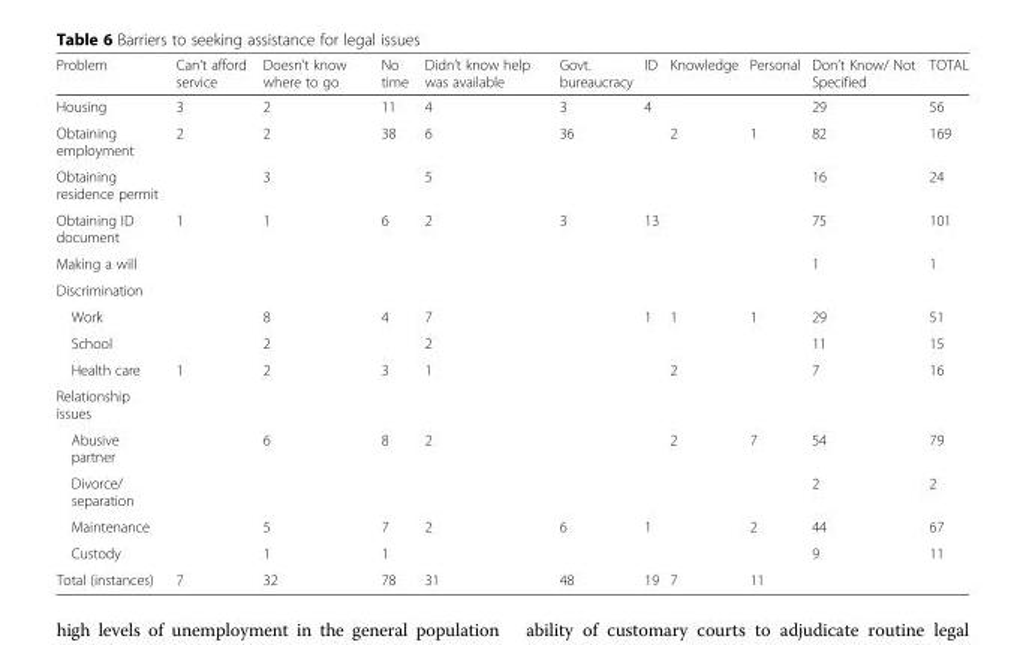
<table><thead><tr><td>Problem</td><td>Can’t afford service</td><td>Doesn’t know where to go</td><td>No time</td><td>Didn’t know help was available</td><td>Govt. bureaucracy</td><td>ID</td><td>Knowledge</td><td>Personal</td><td>Don’t Know/ Not Specified</td><td>TOTAL</td></tr></thead><tbody><tr><td>Housing</td><td>3</td><td>2</td><td>11</td><td>4</td><td>3</td><td>4</td><td></td><td></td><td>29</td><td>56</td></tr><tr><td>Obtaining employment</td><td>2</td><td>2</td><td>38</td><td>6</td><td>36</td><td></td><td>2</td><td>1</td><td>82</td><td>169</td></tr><tr><td>Obtaining residence permit</td><td></td><td>3</td><td></td><td>5</td><td></td><td></td><td></td><td></td><td>16</td><td>24</td></tr><tr><td>Obtaining ID document</td><td>1</td><td>1</td><td>6</td><td>2</td><td>3</td><td>13</td><td></td><td></td><td>75</td><td>101</td></tr><tr><td>Making a will</td><td></td><td></td><td></td><td></td><td></td><td></td><td></td><td></td><td>1</td><td>1</td></tr><tr><td colspan="11">Discrimination</td></tr><tr><td>Work</td><td></td><td>8</td><td>4</td><td>7</td><td></td><td>1</td><td>1</td><td>1</td><td>29</td><td>51</td></tr><tr><td>School</td><td></td><td>2</td><td></td><td>2</td><td></td><td></td><td></td><td></td><td>11</td><td>15</td></tr><tr><td>Health care</td><td>1</td><td>2</td><td>3</td><td>1</td><td></td><td></td><td>2</td><td></td><td>7</td><td>16</td></tr><tr><td colspan="11">Relationship issues</td></tr><tr><td>Abusive partner</td><td></td><td>6</td><td>8</td><td>2</td><td></td><td></td><td>2</td><td>7</td><td>54</td><td>79</td></tr><tr><td>Divorce/ separation</td><td></td><td></td><td></td><td></td><td></td><td></td><td></td><td></td><td>2</td><td>2</td></tr><tr><td>Maintenance</td><td></td><td>5</td><td>7</td><td>2</td><td>6</td><td>1</td><td></td><td>2</td><td>44</td><td>67</td></tr><tr><td>Custody</td><td></td><td>1</td><td>1</td><td></td><td></td><td></td><td></td><td></td><td>9</td><td>11</td></tr><tr><td>Total (instances)</td><td>7</td><td>32</td><td>78</td><td>31</td><td>48</td><td>19</td><td>7</td><td>11</td><td></td><td></td></tr></tbody></table>